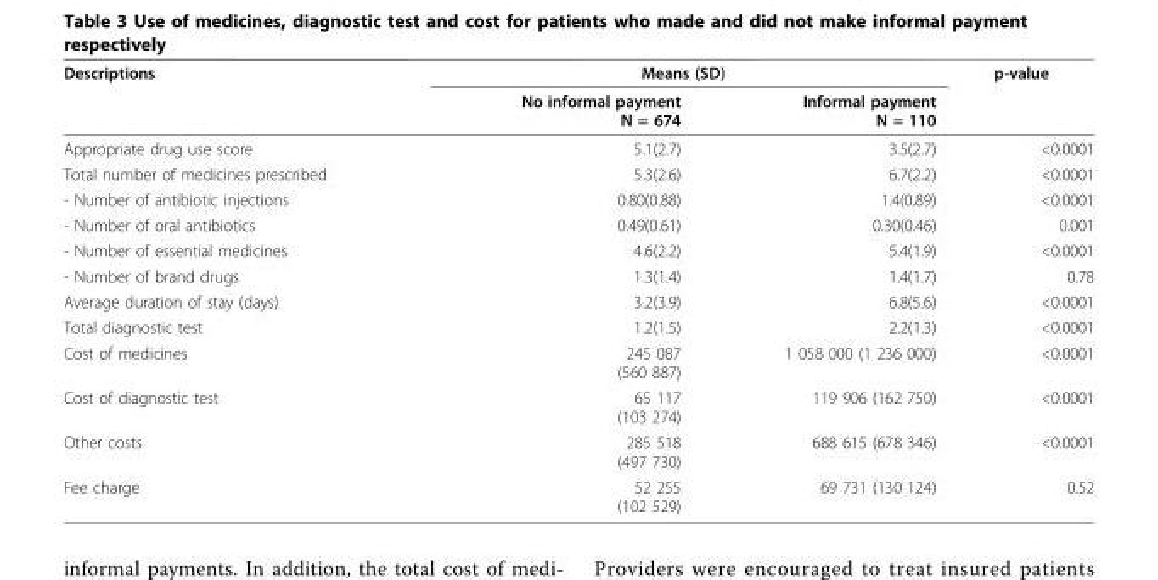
<table><thead><tr><td rowspan="2">Descriptions</td><td colspan="2">Means (SD)</td><td rowspan="2">p-value</td></tr><tr><td>No informal payment N = 674</td><td>Informal payment N = 110</td></tr></thead><tbody><tr><td>Appropriate drug use score</td><td>5.1(2.7)</td><td>3.5(2.7)</td><td>&lt;0.0001</td></tr><tr><td>Total number of medicines prescribed</td><td>5.3(2.6)</td><td>6.7(2.2)</td><td>&lt;0.0001</td></tr><tr><td>- Number of antibiotic injections</td><td>0.80(0.88)</td><td>1.4(0.89)</td><td>&lt;0.0001</td></tr><tr><td>- Number of oral antibiotics</td><td>0.49(0.61)</td><td>0.30(0.46)</td><td>0.001</td></tr><tr><td>- Number of essential medicines</td><td>4.6(2.2)</td><td>5.4(1.9)</td><td>&lt;0.0001</td></tr><tr><td>- Number of brand drugs</td><td>1.3(1.4)</td><td>1.4(1.7)</td><td>0.78</td></tr><tr><td>Average duration of stay (days)</td><td>3.2(3.9)</td><td>6.8(5.6)</td><td>&lt;0.0001</td></tr><tr><td>Total diagnostic test</td><td>1.2(1.5)</td><td>2.2(1.3)</td><td>&lt;0.0001</td></tr><tr><td>Cost of medicines</td><td>245 087 (560 887)</td><td>1 058 000 (1 236 000)</td><td>&lt;0.0001</td></tr><tr><td>Cost of diagnostic test</td><td>65 117 (103 274)</td><td>119 906 (162 750)</td><td>&lt;0.0001</td></tr><tr><td>Other costs</td><td>285 518 (497 730)</td><td>688 615 (678 346)</td><td>&lt;0.0001</td></tr><tr><td>Fee charge</td><td>52 255 (102 529)</td><td>69 731 (130 124)</td><td>0.52</td></tr></tbody></table>